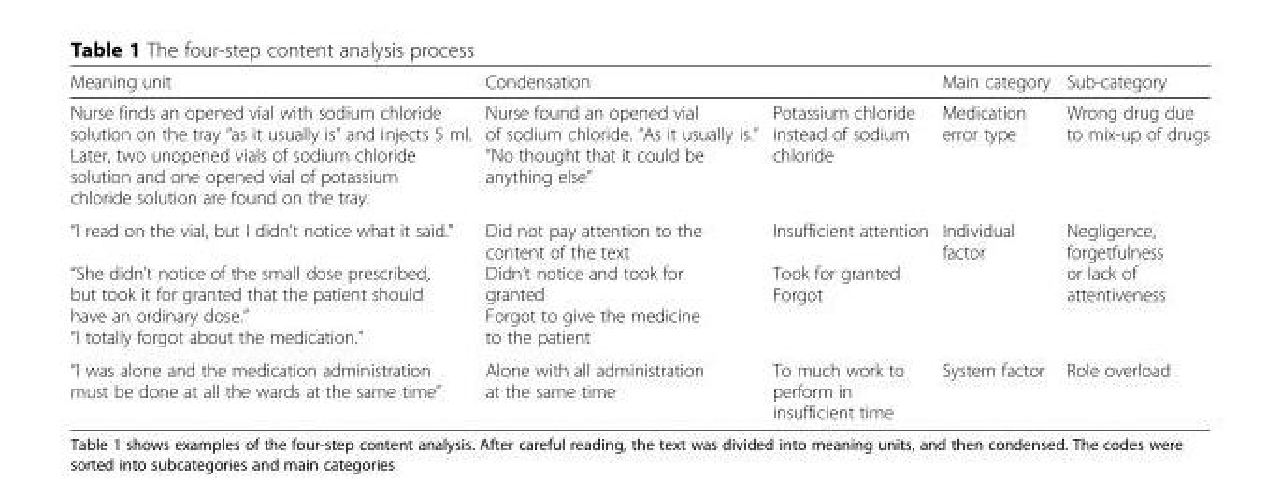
<table><thead><tr><td rowspan="2">Meaning unit Nurse finds an opened vial with sodium chloride solution on the tray “as it usually is” and injects 5 ml. Later, two unopened vials of sodium chloride solution and one opened vial of potassium chloride solution are found on the tray.</td><td colspan="2">Condensation</td><td rowspan="2">Main category Medication error type</td><td rowspan="2">Sub-category Wrong drug due to mix-up of drugs</td></tr><tr><td>Nurse found an opened vial of sodium chloride. “As it usually is.” “No thought that it could be anything else”</td><td>Potassium chloride instead of sodium chloride</td></tr></thead><tbody><tr><td>“I read on the vial, but I didn’t notice what it said.” “She didn’t notice of the small dose prescribed, but took it for granted that the patient should have an ordinary dose.” “I totally forgot about the medication.”</td><td>Did not pay attention to the content of the text Didn’t notice and took for granted Forgot to give the medicine to the patient</td><td>Insufficient attention Took for granted Forgot</td><td>Individual factor</td><td>Negligence, forgetfulness or lack of attentiveness</td></tr><tr><td>“I was alone and the medication administration must be done at all the wards at the same time”</td><td>Alone with all administration at the same time</td><td>To much work to perform in insufficient time</td><td>System factor</td><td>Role overload</td></tr></tbody></table>